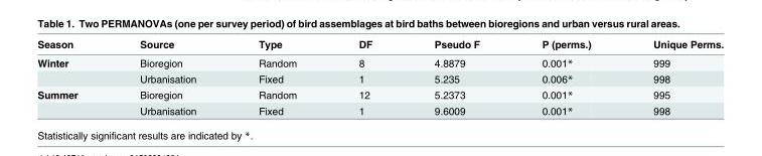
<table><thead><tr><td>Season</td><td>Source</td><td>Type</td><td>DF</td><td>Pseudo F</td><td>P (perms.)</td><td>Unique Perms.</td></tr></thead><tbody><tr><td rowspan="2">Winter</td><td>Bioregion</td><td>Random</td><td>8</td><td>4.8879</td><td>0.001*</td><td>999</td></tr><tr><td>Urbanisation</td><td>Fixed</td><td>1</td><td>5.235</td><td>0.006*</td><td>998</td></tr><tr><td rowspan="2">Summer</td><td>Bioregion</td><td>Random</td><td>12</td><td>5.2373</td><td>0.001*</td><td>995</td></tr><tr><td>Urbanisation</td><td>Fixed</td><td>1</td><td>9.6009</td><td>0.001*</td><td>998</td></tr></tbody></table>